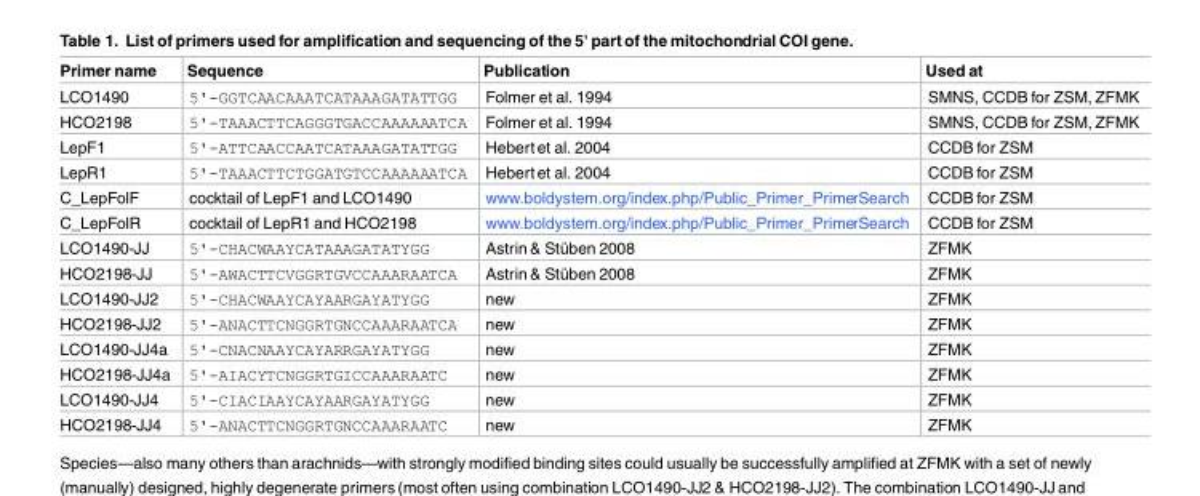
<table><thead><tr><td>Primer name</td><td>Sequence</td><td>Publication</td><td>Used at</td></tr></thead><tbody><tr><td>LCO1490</td><td>5&#x27;-GGTCAACAAATCATAAAGATATTGG</td><td>Folmer et al. 1994</td><td>SMNS, CCDB for ZSM, ZFMK</td></tr><tr><td>HCO2198</td><td>5&#x27;-TAAACTTCAGGGTGACCAAAAAATCA</td><td>Folmer et al. 1994</td><td>SMNS, CCDB for ZSM, ZFMK</td></tr><tr><td>LepF1</td><td>5&#x27;-ATTCAACCAATCATAAAGATATTGG</td><td>Hebertet al. 2004</td><td>CCDB for ZSM</td></tr><tr><td>LepR1</td><td>5&#x27;-TAAACTTCTGGATGTCCAAAAAATCA</td><td>Hebertet al. 2004</td><td>CCDB for ZSM</td></tr><tr><td>C_LepFolF</td><td>cocktail of LepF1 and LCO1490</td><td>www.boldystem.org/index.php/Public_Primer_PrimerSearch</td><td>CCDB for ZSM</td></tr><tr><td>C_LepFolR</td><td>cocktail of LepR1 and HCO2198</td><td>www.boldystem.org/index.php/Public_Primer_PrimerSearch</td><td>CCDB for ZSM</td></tr><tr><td>LCO1490-JJ</td><td>5&#x27;-CHACWAAYCATAAAGATATYGG</td><td>Astrin &amp; Stüben 2008</td><td>ZFMK</td></tr><tr><td>HCO2198-JJ</td><td>5&#x27;-AWACTTCVGGRTGVCCAAARAATCA</td><td>Astrin &amp; Stüben 2008</td><td>ZFMK</td></tr><tr><td>LCO1490-JJ2</td><td>5&#x27;-CHACWAAYCAYAARGAYATYGG</td><td>new</td><td>ZFMK</td></tr><tr><td>HCO2198-JJ2</td><td>5&#x27;-ANACTTCNGGRTGNCCAAARAATCA</td><td>new</td><td>ZFMK</td></tr><tr><td>LCO1490-JJ4a</td><td>5&#x27;-CNACNAAYCAYARRGAYATYGG</td><td>new</td><td>ZFMK</td></tr><tr><td>HCO2198-JJ4a</td><td>5&#x27;-AIACYTCNGGRTGICCAAARAATC</td><td>new</td><td>ZFMK</td></tr><tr><td>LCO1490-JJ4</td><td>5&#x27;-CIACIAAYCAYAARGAYATYGG</td><td>new</td><td>ZFMK</td></tr><tr><td>HCO2198-JJ4</td><td>5&#x27;-ANACTTCNGGRTGNCCAAARAATC</td><td>new</td><td>ZFMK</td></tr></tbody></table>